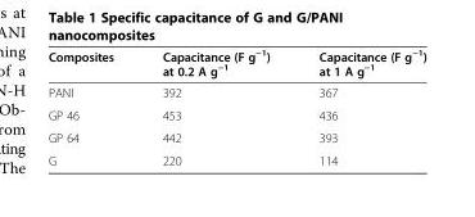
<table><thead><tr><td>Composites</td><td>Capacitance (F g<sup>−1</sup>) at 0.2 A g<sup>−1</sup></td><td>Capacitance (F g<sup>−1</sup>) at 1 A g<sup>−1</sup></td></tr></thead><tbody><tr><td>PANI</td><td>392</td><td>367</td></tr><tr><td>GP 46</td><td>453</td><td>436</td></tr><tr><td>GP 64</td><td>442</td><td>393</td></tr><tr><td>G</td><td>220</td><td>114</td></tr></tbody></table>